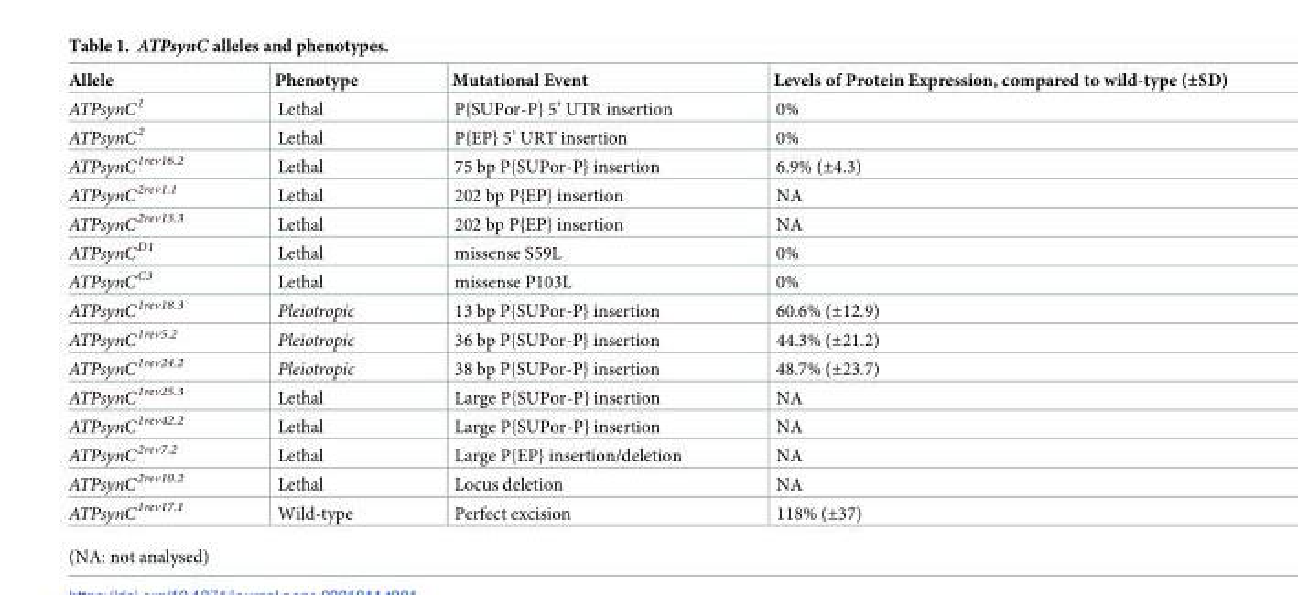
<table><thead><tr><td>Allele</td><td>Phenotype</td><td>Mutational Event</td><td>Levels of Protein Expression, compared to wild-type (±SD)</td></tr></thead><tbody><tr><td>ATPsynC<sup>1</sup></td><td>Lethal</td><td>P{SUPor-P} 5’ UTR insertion</td><td>0%</td></tr><tr><td>ATPsynC<sup>2</sup></td><td>Lethal</td><td>P{EP} 5’ URT insertion</td><td>0%</td></tr><tr><td>ATPsynC<sup>1rev16.2</sup></td><td>Lethal</td><td>75 bp P{SUPor-P} insertion</td><td>6.9% (±4.3)</td></tr><tr><td>ATPsynC<sup>2rev1.1</sup></td><td>Lethal</td><td>202 bp P{EP} insertion</td><td>NA</td></tr><tr><td>ATPsynC<sup>2rev13.3</sup></td><td>Lethal</td><td>202 bp P{EP} insertion</td><td>NA</td></tr><tr><td>ATPsynC<sup>D1</sup></td><td>Lethal</td><td>missense S59L</td><td>0%</td></tr><tr><td>ATPsynC<sup>C3</sup></td><td>Lethal</td><td>missense P103L</td><td>0%</td></tr><tr><td>ATPsynC<sup>1rev18.3</sup></td><td>Pleiotropic</td><td>13 bp P{SUPor-P} insertion</td><td>60.6% (±12.9)</td></tr><tr><td>ATPsynC<sup>1rev5.2</sup></td><td>Pleiotropic</td><td>36 bp P{SUPor-P} insertion</td><td>44.3% (±21.2)</td></tr><tr><td>ATPsynC<sup>1rev24.2</sup></td><td>Pleiotropic</td><td>38 bp P{SUPor-P} insertion</td><td>48.7% (±23.7)</td></tr><tr><td>ATPsynC<sup>1rev25.3</sup></td><td>Lethal</td><td>Large P{SUPor-P} insertion</td><td>NA</td></tr><tr><td>ATPsynC<sup>1rev42.2</sup></td><td>Lethal</td><td>Large P{SUPor-P} insertion</td><td>NA</td></tr><tr><td>ATPsynC<sup>2rev7.2</sup></td><td>Lethal</td><td>Large P{EP} insertion/deletion</td><td>NA</td></tr><tr><td>ATPsynC<sup>2rev10.2</sup></td><td>Lethal</td><td>Locus deletion</td><td>NA</td></tr><tr><td>ATPsynC<sup>1rev17.1</sup></td><td>Wild-type</td><td>Perfect excision</td><td>118% (±37)</td></tr></tbody></table>